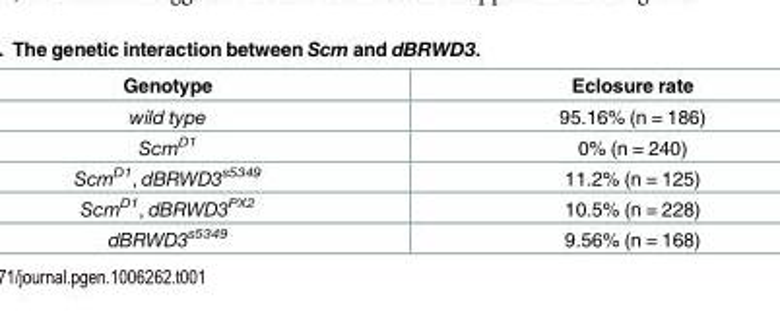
<table><thead><tr><td>Genotype</td><td>Eclosure rate</td></tr></thead><tbody><tr><td>wild type</td><td>95.16% (n = 186)</td></tr><tr><td>Scm<sup>D1</sup></td><td>0% (n = 240)</td></tr><tr><td>Scm<sup>D1</sup>, dBRWD3<sup>s5349</sup></td><td>11.2% (n = 125)</td></tr><tr><td>Scm<sup>D1</sup>, dBRWD3<sup>PX2</sup></td><td>10.5% (n = 228)</td></tr><tr><td>dBRWD3<sup>s5349</sup></td><td>9.56% (n = 168)</td></tr></tbody></table>